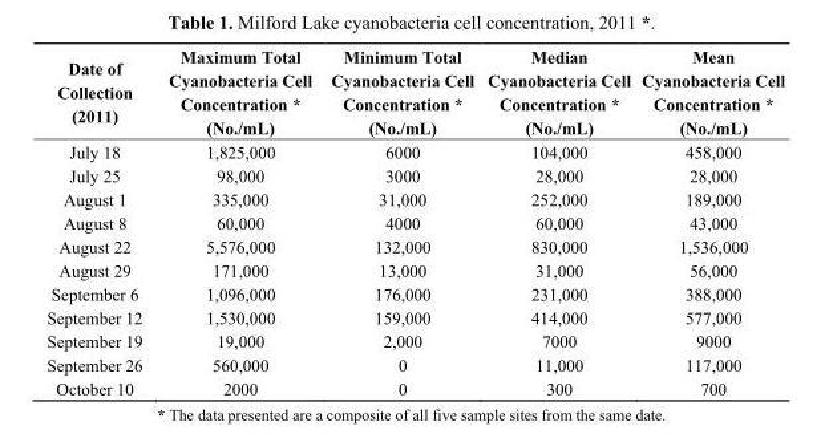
<table><thead><tr><td>Date of Collection (2011)</td><td>Maximum Total Cyanobacteria Cell Concentration * (No./mL)</td><td>Minimum Total Cyanobacteria Cell Concentration * (No./mL)</td><td>Median Cyanobacteria Cell Concentration * (No./mL)</td><td>Mean Cyanobacteria Cell Concentration * (No./mL)</td></tr></thead><tbody><tr><td>July 18</td><td>1,825,000</td><td>6000</td><td>104,000</td><td>458,000</td></tr><tr><td>July 25</td><td>98,000</td><td>3000</td><td>28,000</td><td>28,000</td></tr><tr><td>August 1</td><td>335,000</td><td>31,000</td><td>252,000</td><td>189,000</td></tr><tr><td>August 8</td><td>60,000</td><td>4000</td><td>60,000</td><td>43,000</td></tr><tr><td>August 22</td><td>5,576,000</td><td>132,000</td><td>830,000</td><td>1,536,000</td></tr><tr><td>August 29</td><td>171,000</td><td>13,000</td><td>31,000</td><td>56,000</td></tr><tr><td>September 6</td><td>1,096,000</td><td>176,000</td><td>231,000</td><td>388,000</td></tr><tr><td>September 12</td><td>1,530,000</td><td>159,000</td><td>414,000</td><td>577,000</td></tr><tr><td>September 19</td><td>19,000</td><td>2,000</td><td>7000</td><td>9000</td></tr><tr><td>September 26</td><td>560,000</td><td>0</td><td>11,000</td><td>117,000</td></tr><tr><td>October 10</td><td>2000</td><td>0</td><td>300</td><td>700</td></tr></tbody></table>